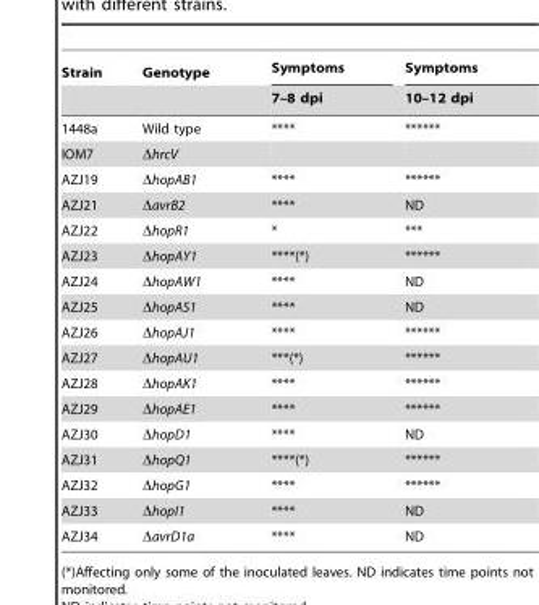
<table><thead><tr><td rowspan="2">Strain</td><td rowspan="2">Genotype</td><td rowspan="2">Symptoms 7–8 dpi</td><td rowspan="2">Symptoms 10–12 dpi</td></tr><tr></tr></thead><tbody><tr><td>1448a</td><td>Wild type</td><td>****</td><td>******</td></tr><tr><td>IOM7</td><td>ΔhrcV</td><td></td><td></td></tr><tr><td>AZJ19</td><td>ΔhopAB1</td><td>****</td><td>******</td></tr><tr><td>AZJ21</td><td>ΔavrB2</td><td>****</td><td>ND</td></tr><tr><td>AZJ22</td><td>ΔhopR1</td><td>*</td><td>***</td></tr><tr><td>AZJ23</td><td>ΔhopAY1</td><td>****(*)</td><td>******</td></tr><tr><td>AZJ24</td><td>ΔhopAW1</td><td>****</td><td>ND</td></tr><tr><td>AZJ25</td><td>ΔhopAS1</td><td>****</td><td>ND</td></tr><tr><td>AZJ26</td><td>ΔhopAJ1</td><td>****</td><td>******</td></tr><tr><td>AZJ27</td><td>ΔhopAU1</td><td>***(*)</td><td>******</td></tr><tr><td>AZJ28</td><td>ΔhopAK1</td><td>****</td><td>******</td></tr><tr><td>AZJ29</td><td>ΔhopAE1</td><td>****</td><td>******</td></tr><tr><td>AZJ30</td><td>ΔhopD1</td><td>****</td><td>ND</td></tr><tr><td>AZJ31</td><td>ΔhopQ1</td><td>****(*)</td><td>******</td></tr><tr><td>AZJ32</td><td>ΔhopG1</td><td>****</td><td>******</td></tr><tr><td>AZJ33</td><td>ΔhopI1</td><td>****</td><td>ND</td></tr><tr><td>AZJ34</td><td>ΔavrD1a</td><td>****</td><td>ND</td></tr></tbody></table>